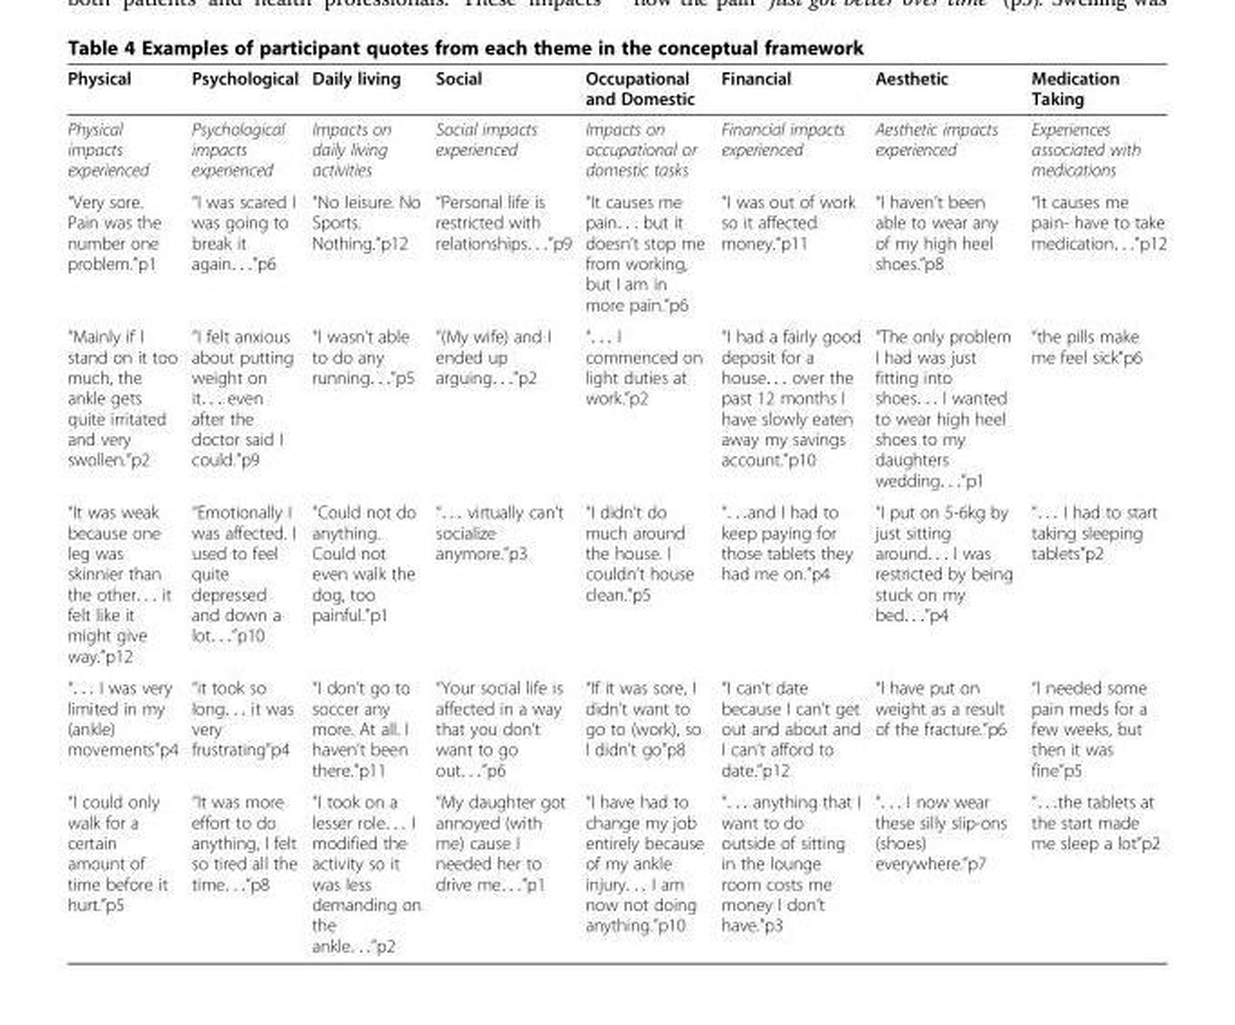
<table><thead><tr><td>Physical</td><td>Psychological</td><td>Daily living</td><td>Social</td><td>Occupational and Domestic</td><td>Financial</td><td>Aesthetic</td><td>Medication Taking</td></tr></thead><tbody><tr><td>Physical impacts experienced</td><td>Psychological impacts experienced</td><td>Impacts on daily living activities</td><td>Social impacts experienced</td><td>Impacts on occupational or domestic tasks</td><td>Financial impacts experienced</td><td>Aesthetic impacts experienced</td><td>Experiences associated with medications</td></tr><tr><td>“Very sore. Pain was the number one problem.”p1</td><td>“I was scared I was going to break it again. . .”p6</td><td>“No leisure. No Sports. Nothing.”p12</td><td>“Personal life is restricted with relationships. . .”p9</td><td>“It causes me pain. . . but it doesn’t stop me from working, but I am in more pain.”p6</td><td>“I was out of work so it affected money.”p11</td><td>“I haven’t been able to wear any of my high heel shoes.”p8</td><td>“It causes me pain- have to take medication. . .”p12</td></tr><tr><td>“Mainly if I stand on it too much, the ankle gets quite irritated and very swollen.”p2</td><td>“I felt anxious about putting weight on it. . . even after the doctor said I could.”p9</td><td>“I wasn’t able to do any running. . .”p5</td><td>“(My wife) and I ended up arguing. . .”p2</td><td>“. . . I commenced on light duties at work.”p2</td><td>“I had a fairly good deposit for a house. . . over the past 12 months I have slowly eaten away my savings account.”p10</td><td>“The only problem I had was just fitting into shoes. . . I wanted to wear high heel shoes to my daughters wedding. . .”p1</td><td>“the pills make me feel sick”p6</td></tr><tr><td>“It was weak because one leg was skinnier than the other. . . it felt like it might give way.”p12</td><td>“Emotionally I was affected. I used to feel quite depressed and down a lot. . .”p10</td><td>“Could not do anything. Could not even walk the dog, too painful.”p1</td><td>“. . . virtually can’t socialize anymore.”p3</td><td>“I didn’t do much around the house. I couldn’t house clean.”p5</td><td>“. . .and I had to keep paying for those tablets they had me on.”p4</td><td>“I put on 5-6kg by just sitting around. . . I was restricted by being stuck on my bed. . .”p4</td><td>“. . . I had to start taking sleeping tablets”p2</td></tr><tr><td>“. . . I was very limited in my (ankle) movements”p4</td><td>“it took so long. . . it was very frustrating”p4</td><td>“I don’t go to soccer any more. At all. I haven’t been there.”p11</td><td>“Your social life is affected in a way that you don’t want to go out. . .”p6</td><td>“If it was sore, I didn’t want to go to (work), so I didn’t go”p8</td><td>“I can’t date because I can’t get out and about and I can’t afford to date.”p12</td><td>“I have put on weight as a result of the fracture.”p6</td><td>“I needed some pain meds for a few weeks, but then it was fine”p5</td></tr><tr><td>“I could only walk for a certain amount of time before it hurt.”p5</td><td>“It was more effort to do anything, I felt so tired all the time. . .”p8</td><td>“I took on a lesser role. . . I modified the activity so it was less demanding on the ankle. . .”p2</td><td>“My daughter got annoyed (with me) cause I needed her to drive me. . .”p1</td><td>“I have had to change my job entirely because of my ankle injury. . . I am now not doing anything.”p10</td><td>“. . . anything that I want to do outside of sitting in the lounge room costs me money I don’t have.”p3</td><td>“. . . I now wear these silly slip-ons (shoes) everywhere.”p7</td><td>“. . .the tablets at the start made me sleep a lot”p2</td></tr></tbody></table>